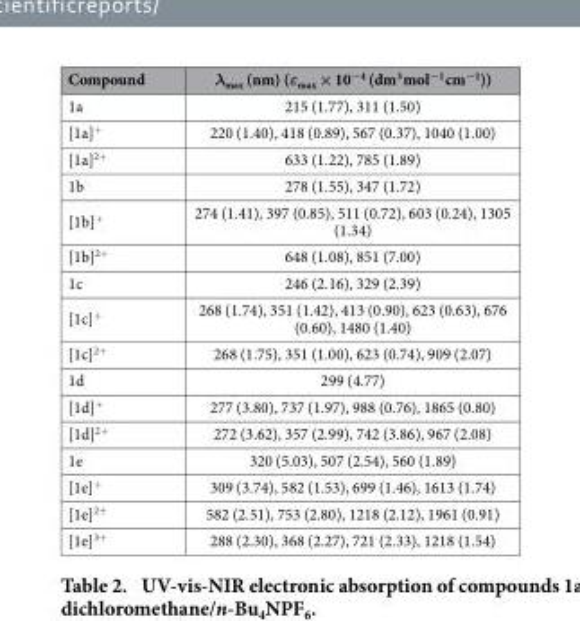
<table><thead><tr><td>Compound</td><td>λ<sub>max</sub> (nm) (ε<sub>max</sub> × 10<sup>−4</sup> (dm<sup>3</sup> mol<sup>−1</sup> cm<sup>−1</sup>))</td></tr></thead><tbody><tr><td>1a</td><td>215 (1.77), 311 (1.50)</td></tr><tr><td>[1a]<sup>+</sup></td><td>220 (1.40), 418 (0.89), 567 (0.37), 1040 (1.00)</td></tr><tr><td>[1a]<sup>2+</sup></td><td>633 (1.22), 785 (1.89)</td></tr><tr><td>1b</td><td>278 (1.55), 347 (1.72)</td></tr><tr><td>[1b]<sup>+</sup></td><td>274 (1.41), 397 (0.85), 511 (0.72), 603 (0.24), 1305 (1.34)</td></tr><tr><td>[1b]<sup>2+</sup></td><td>648 (1.08), 851 (7.00)</td></tr><tr><td>1c</td><td>246 (2.16), 329 (2.39)</td></tr><tr><td>[1c]<sup>+</sup></td><td>268 (1.74), 351 (1.42), 413 (0.90), 623 (0.63), 676 (0.60), 1480 (1.40)</td></tr><tr><td>[1c]<sup>2+</sup></td><td>268 (1.75), 351 (1.00), 623 (0.74), 909 (2.07)</td></tr><tr><td>1d</td><td>299 (4.77)</td></tr><tr><td>[1d]<sup>+</sup></td><td>277 (3.80), 737 (1.97), 988 (0.76), 1865 (0.80)</td></tr><tr><td>[1d]<sup>2+</sup></td><td>272 (3.62), 357 (2.99), 742 (3.86), 967 (2.08)</td></tr><tr><td>1e</td><td>320 (5.03), 507 (2.54), 560 (1.89)</td></tr><tr><td>[1e]<sup>+</sup></td><td>309 (3.74), 582 (1.53), 699 (1.46), 1613 (1.74)</td></tr><tr><td>[1e]<sup>2+</sup></td><td>582 (2.51), 753 (2.80), 1218 (2.12), 1961 (0.91)</td></tr><tr><td>[1e]<sup>3+</sup></td><td>288 (2.30), 368 (2.27), 721 (2.33), 1218 (1.54)</td></tr></tbody></table>